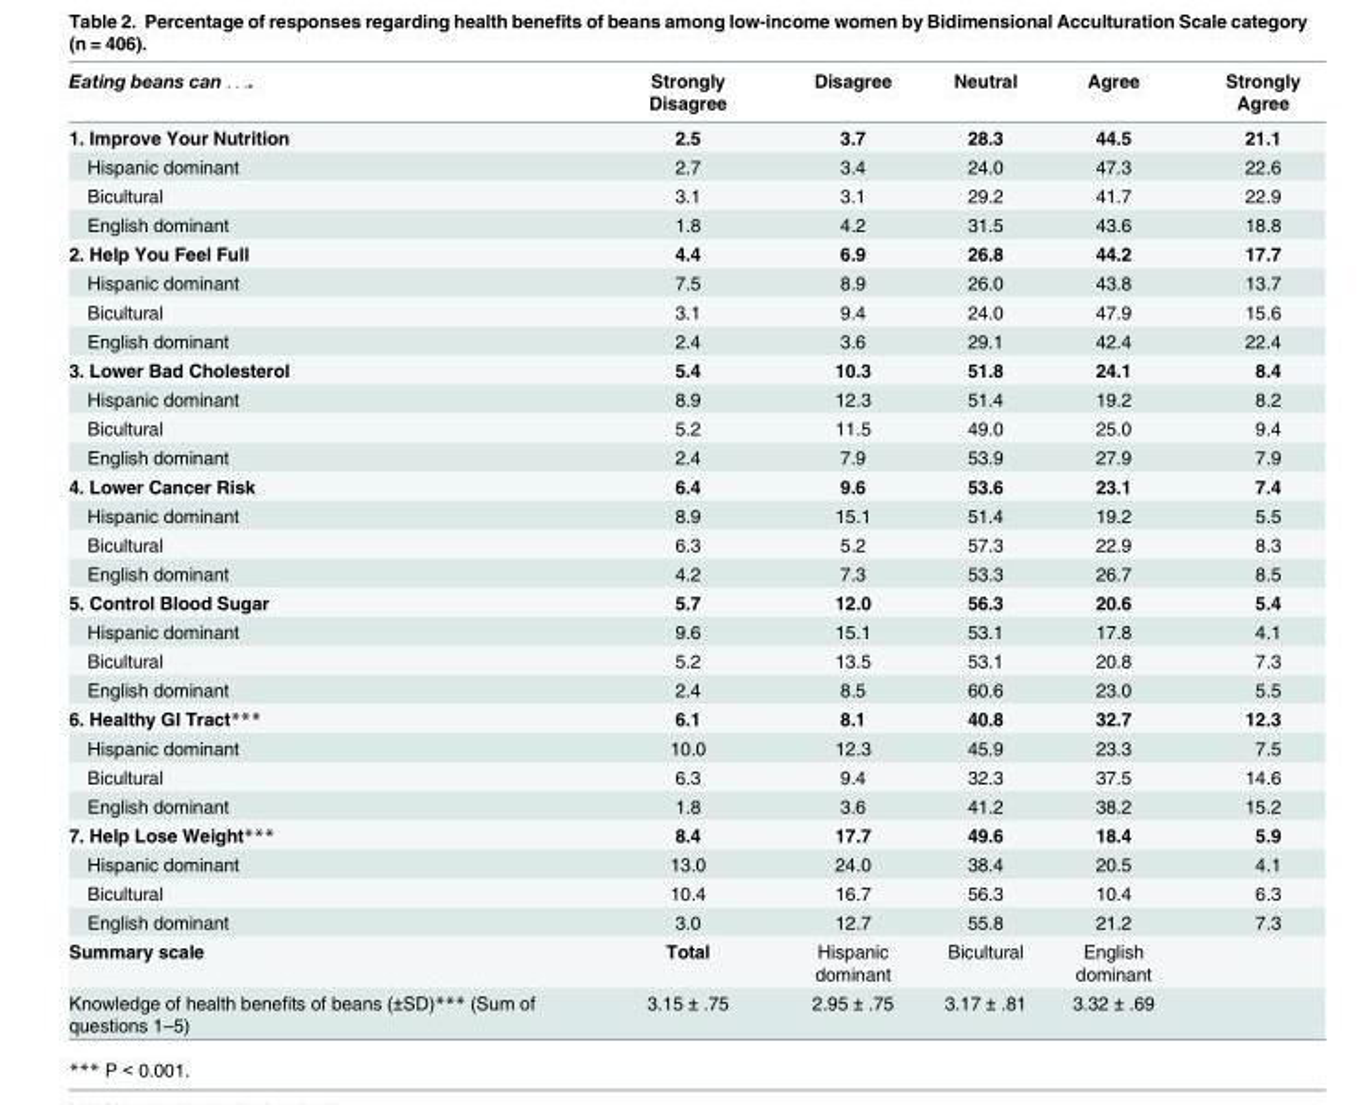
<table><thead><tr><td>Eating beans can . . ..</td><td>Strongly Disagree</td><td>Disagree</td><td>Neutral</td><td>Agree</td><td>Strongly Agree</td></tr></thead><tbody><tr><td>1. Improve Your Nutrition</td><td>2.5</td><td>3.7</td><td>28.3</td><td>44.5</td><td>21.1</td></tr><tr><td>Hispanic dominant</td><td>2.7</td><td>3.4</td><td>24.0</td><td>47.3</td><td>22.6</td></tr><tr><td>Bicultural</td><td>3.1</td><td>3.1</td><td>29.2</td><td>41.7</td><td>22.9</td></tr><tr><td>English dominant</td><td>1.8</td><td>4.2</td><td>31.5</td><td>43.6</td><td>18.8</td></tr><tr><td>2. Help You Feel Full</td><td>4.4</td><td>6.9</td><td>26.8</td><td>44.2</td><td>17.7</td></tr><tr><td>Hispanic dominant</td><td>7.5</td><td>8.9</td><td>26.0</td><td>43.8</td><td>13.7</td></tr><tr><td>Bicultural</td><td>3.1</td><td>9.4</td><td>24.0</td><td>47.9</td><td>15.6</td></tr><tr><td>English dominant</td><td>2.4</td><td>3.6</td><td>29.1</td><td>42.4</td><td>22.4</td></tr><tr><td>3. Lower Bad Cholesterol</td><td>5.4</td><td>10.3</td><td>51.8</td><td>24.1</td><td>8.4</td></tr><tr><td>Hispanic dominant</td><td>8.9</td><td>12.3</td><td>51.4</td><td>19.2</td><td>8.2</td></tr><tr><td>Bicultural</td><td>5.2</td><td>11.5</td><td>49.0</td><td>25.0</td><td>9.4</td></tr><tr><td>English dominant</td><td>2.4</td><td>7.9</td><td>53.9</td><td>27.9</td><td>7.9</td></tr><tr><td>4. Lower Cancer Risk</td><td>6.4</td><td>9.6</td><td>53.6</td><td>23.1</td><td>7.4</td></tr><tr><td>Hispanic dominant</td><td>8.9</td><td>15.1</td><td>51.4</td><td>19.2</td><td>5.5</td></tr><tr><td>Bicultural</td><td>6.3</td><td>5.2</td><td>57.3</td><td>22.9</td><td>8.3</td></tr><tr><td>English dominant</td><td>4.2</td><td>7.3</td><td>53.3</td><td>26.7</td><td>8.5</td></tr><tr><td>5. Control Blood Sugar</td><td>5.7</td><td>12.0</td><td>56.3</td><td>20.6</td><td>5.4</td></tr><tr><td>Hispanic dominant</td><td>9.6</td><td>15.1</td><td>53.1</td><td>17.8</td><td>4.1</td></tr><tr><td>Bicultural</td><td>5.2</td><td>13.5</td><td>53.1</td><td>20.8</td><td>7.3</td></tr><tr><td>English dominant</td><td>2.4</td><td>8.5</td><td>60.6</td><td>23.0</td><td>5.5</td></tr><tr><td>6. Healthy GI Tract***</td><td>6.1</td><td>8.1</td><td>40.8</td><td>32.7</td><td>12.3</td></tr><tr><td>Hispanic dominant</td><td>10.0</td><td>12.3</td><td>45.9</td><td>23.3</td><td>7.5</td></tr><tr><td>Bicultural</td><td>6.3</td><td>9.4</td><td>32.3</td><td>37.5</td><td>14.6</td></tr><tr><td>English dominant</td><td>1.8</td><td>3.6</td><td>41.2</td><td>38.2</td><td>15.2</td></tr><tr><td>7. Help Lose Weight***</td><td>8.4</td><td>17.7</td><td>49.6</td><td>18.4</td><td>5.9</td></tr><tr><td>Hispanic dominant</td><td>13.0</td><td>24.0</td><td>38.4</td><td>20.5</td><td>4.1</td></tr><tr><td>Bicultural</td><td>10.4</td><td>16.7</td><td>56.3</td><td>10.4</td><td>6.3</td></tr><tr><td>English dominant</td><td>3.0</td><td>12.7</td><td>55.8</td><td>21.2</td><td>7.3</td></tr><tr><td>Summary scale</td><td>Total</td><td>Hispanic dominant</td><td>Bicultural</td><td>English dominant</td><td></td></tr><tr><td>Knowledge of health benefits of beans (±SD)*** (Sum of questions 1–5)</td><td>3.15 ± .75</td><td>2.95 ± .75</td><td>3.17 ± .81</td><td>3.32 ± .69</td><td></td></tr></tbody></table>